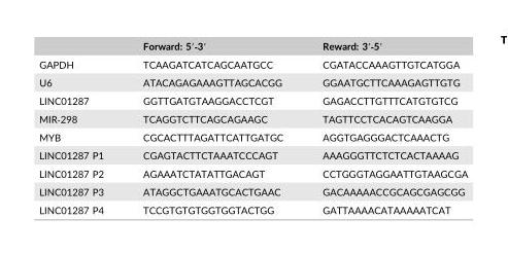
<table><thead><tr><td></td><td>Forward: 5′‐3′</td><td>Reward: 3′‐5′</td></tr></thead><tbody><tr><td>GAPDH</td><td>TCAAGATCATCAGCAATGCC</td><td>CGATACCAAAGTTGTCATGGA</td></tr><tr><td>U6</td><td>ATACAGAGAAAGTTAGCACGG</td><td>GGAATGCTTCAAAGAGTTGTG</td></tr><tr><td>LINC01287</td><td>GGTTGATGTAAGGACCTCGT</td><td>GAGACCTTGTTTCATGTGTCG</td></tr><tr><td>MIR‐298</td><td>TCAGGTCTTCAGCAGAAGC</td><td>TAGTTCCTCACAGTCAAGGA</td></tr><tr><td>MYB</td><td>CGCACTTTAGATTCATTGATGC</td><td>AGGTGAGGGACTCAAACTG</td></tr><tr><td>LINC01287 P1</td><td>CGAGTACTTCTAAATCCCAGT</td><td>AAAGGGTTCTCTCACTAAAAG</td></tr><tr><td>LINC01287 P2</td><td>AGAAATCTATATTGACAGT</td><td>CCTGGGTAGGAATTGTAAGCGA</td></tr><tr><td>LINC01287 P3</td><td>ATAGGCTGAAATGCACTGAAC</td><td>GACAAAAACCGCAGCGAGCGG</td></tr><tr><td>LINC01287 P4</td><td>TCCGTGTGTGGTGGTACTGG</td><td>GATTAAAACATAAAAATCAT</td></tr></tbody></table>